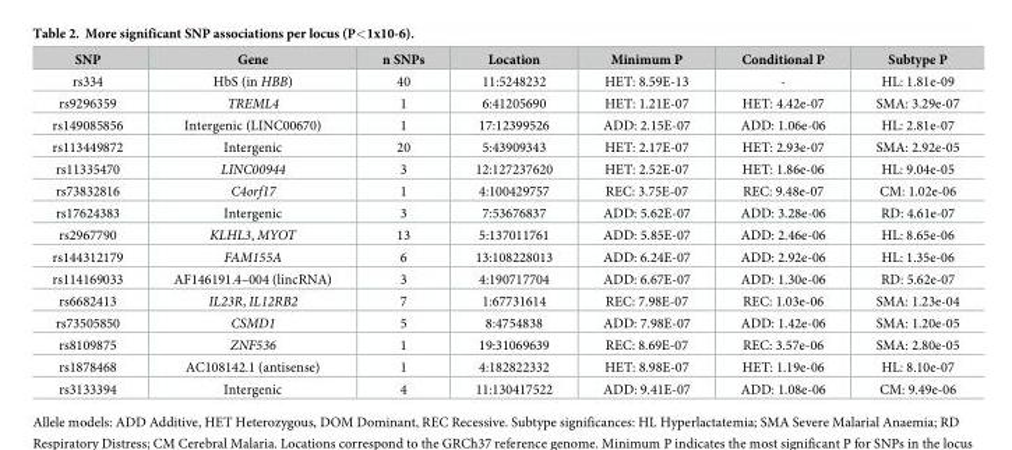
<table><thead><tr><td>SNP</td><td>Gene</td><td>n SNPs</td><td>Location</td><td>Minimum P</td><td>Conditional P</td><td>Subtype P</td></tr></thead><tbody><tr><td>rs334</td><td>HbS (in HBB)</td><td>40</td><td>11:5248232</td><td>HET: 8.59E-13</td><td>-</td><td>HL: 1.81e-09</td></tr><tr><td>rs9296359</td><td>TREML4</td><td>1</td><td>6:41205690</td><td>HET: 1.21E-07</td><td>HET: 4.42e-07</td><td>SMA: 3.29e-07</td></tr><tr><td>rs149085856</td><td>Intergenic (LINC00670)</td><td>1</td><td>17:12399526</td><td>ADD: 2.15E-07</td><td>ADD: 1.06e-06</td><td>HL: 2.81e-07</td></tr><tr><td>rs113449872</td><td>Intergenic</td><td>20</td><td>5:43909343</td><td>HET: 2.17E-07</td><td>HET: 2.93e-07</td><td>SMA: 2.92e-05</td></tr><tr><td>rs11335470</td><td>LINC00944</td><td>3</td><td>12:127237620</td><td>HET: 2.52E-07</td><td>HET: 1.86e-06</td><td>HL: 9.04e-05</td></tr><tr><td>rs73832816</td><td>C4orf17</td><td>1</td><td>4:100429757</td><td>REC: 3.75E-07</td><td>REC: 9.48e-07</td><td>CM: 1.02e-06</td></tr><tr><td>rs17624383</td><td>Intergenic</td><td>3</td><td>7:53676837</td><td>ADD: 5.62E-07</td><td>ADD: 3.28e-06</td><td>RD: 4.61e-07</td></tr><tr><td>rs2967790</td><td>KLHL3, MYOT</td><td>13</td><td>5:137011761</td><td>ADD: 5.85E-07</td><td>ADD: 2.46e-06</td><td>HL: 8.65e-06</td></tr><tr><td>rs144312179</td><td>FAM155A</td><td>6</td><td>13:108228013</td><td>ADD: 6.24E-07</td><td>ADD: 2.92e-06</td><td>HL: 1.35e-06</td></tr><tr><td>rs114169033</td><td>AF146191.4–004 (lincRNA)</td><td>3</td><td>4:190717704</td><td>ADD: 6.67E-07</td><td>ADD: 1.30e-06</td><td>RD: 5.62e-07</td></tr><tr><td>rs6682413</td><td>IL23R, IL12RB2</td><td>7</td><td>1:67731614</td><td>REC: 7.98E-07</td><td>REC: 1.03e-06</td><td>SMA: 1.23e-04</td></tr><tr><td>rs73505850</td><td>CSMD1</td><td>5</td><td>8:4754838</td><td>ADD: 7.98E-07</td><td>ADD: 1.42e-06</td><td>SMA: 1.20e-05</td></tr><tr><td>rs8109875</td><td>ZNF536</td><td>1</td><td>19:31069639</td><td>REC: 8.69E-07</td><td>REC: 3.57e-06</td><td>SMA: 2.80e-05</td></tr><tr><td>rs1878468</td><td>AC108142.1 (antisense)</td><td>1</td><td>4:182822332</td><td>HET: 8.98E-07</td><td>HET: 1.19e-06</td><td>HL: 8.10e-07</td></tr><tr><td>rs3133394</td><td>Intergenic</td><td>4</td><td>11:130417522</td><td>ADD: 9.41E-07</td><td>ADD: 1.08e-06</td><td>CM: 9.49e-06</td></tr></tbody></table>